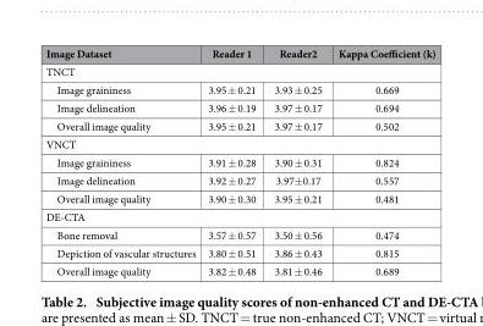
<table><thead><tr><td>Image Dataset</td><td>Reader 1</td><td>Reader2</td><td>Kappa Coefficient (k)</td></tr></thead><tbody><tr><td colspan="4">TNCT</td></tr><tr><td>Image graininess</td><td>3.95 ± 0.21</td><td>3.93 ± 0.25</td><td>0.669</td></tr><tr><td>Image delineation</td><td>3.96 ± 0.19</td><td>3.97 ± 0.17</td><td>0.694</td></tr><tr><td>Overall image quality</td><td>3.95 ± 0.21</td><td>3.97 ± 0.17</td><td>0.502</td></tr><tr><td colspan="4">VNCT</td></tr><tr><td>Image graininess</td><td>3.91 ± 0.28</td><td>3.90 ± 0.31</td><td>0.824</td></tr><tr><td>Image delineation</td><td>3.92 ± 0.27</td><td>3.97± 0.17</td><td>0.557</td></tr><tr><td>Overall image quality</td><td>3.90 ± 0.30</td><td>3.95 ± 0.21</td><td>0.481</td></tr><tr><td colspan="4">DE-CTA</td></tr><tr><td>Bone removal</td><td>3.57 ± 0.57</td><td>3.50 ± 0.56</td><td>0.474</td></tr><tr><td>Depiction of vascular structures</td><td>3.80 ± 0.51</td><td>3.86 ± 0.43</td><td>0.815</td></tr><tr><td>Overall image quality</td><td>3.82 ± 0.48</td><td>3.81 ± 0.46</td><td>0.689</td></tr></tbody></table>